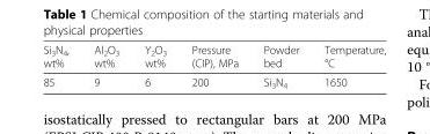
<table><thead><tr><td>Si<sub>3</sub>N<sub>4</sub>, wt%</td><td>Al<sub>2</sub>O<sub>3</sub> wt%</td><td>Y<sub>2</sub>O<sub>3</sub> wt%</td><td>Pressure (CIP), MPa</td><td>Powder bed</td><td>Temperature, °C</td></tr></thead><tbody><tr><td>85</td><td>9</td><td>6</td><td>200</td><td>Si<sub>3</sub>N<sub>4</sub></td><td>1650</td></tr></tbody></table>